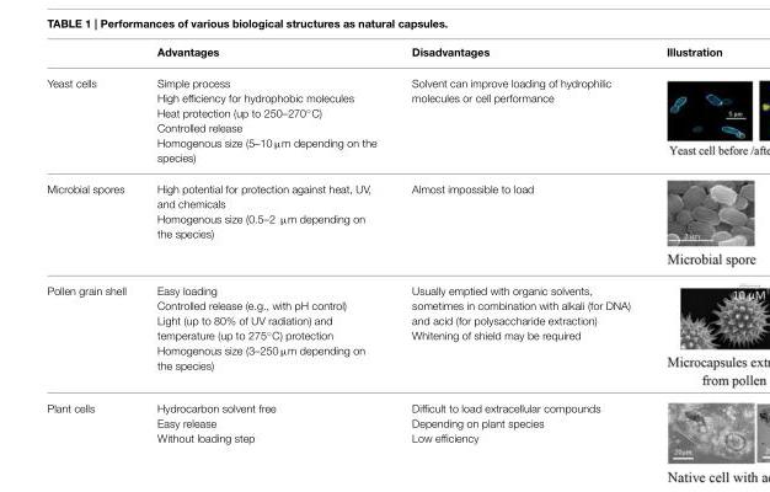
<table><thead><tr><td></td><td>Advantages</td><td>Disadvantages</td><td>Illustration</td></tr></thead><tbody><tr><td>Yeast cells</td><td>Simple process High efficiency for hydrophobic molecules Heat protection (up to 250–270◦C) Controlled release Homogenous size (5–10 µm depending on the species)</td><td>Solvent can improve loading of hydrophilic molecules or cell performance</td><td></td></tr><tr><td>Microbial spores</td><td>High potential for protection against heat, UV, and chemicals Homogenous size (0.5–2 µm depending on the species)</td><td>Almost impossible to load</td><td></td></tr><tr><td>Pollen grain shell</td><td>Easy loading Controlled release (e.g., with pH control) Light (up to 80% of UV radiation) and temperature (up to 275◦C) protection Homogenous size (3–250 µm depending on the species)</td><td>Usually emptied with organic solvents, sometimes in combination with alkali (for DNA) and acid (for polysaccharide extraction) Whitening of shield may be required</td><td></td></tr><tr><td>Plant cells</td><td>Hydrocarbon solvent free Easy release Without loading step</td><td>Difficult to load extracellular compounds Depending on plant species Low efficiency</td><td></td></tr></tbody></table>